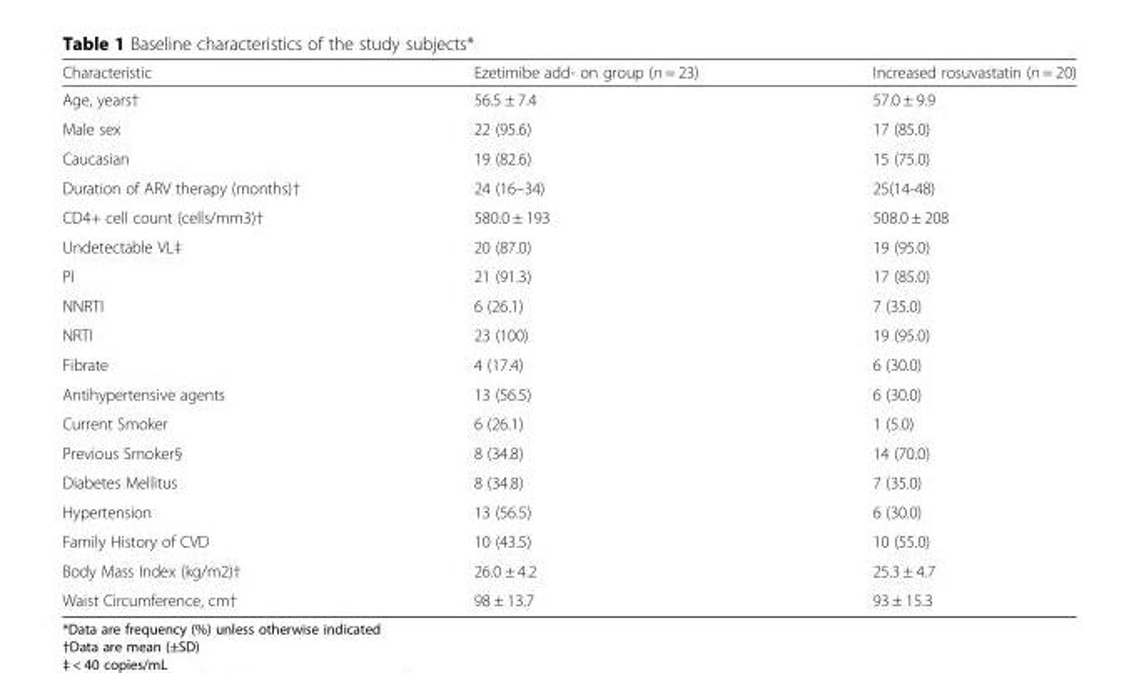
<table><thead><tr><td>Characteristic</td><td>Ezetimibe add- on group (n = 23)</td><td>Increased rosuvastatin (n = 20)</td></tr></thead><tbody><tr><td>Age, years†</td><td>56.5 ± 7.4</td><td>57.0 ± 9.9</td></tr><tr><td>Male sex</td><td>22 (95.6)</td><td>17 (85.0)</td></tr><tr><td>Caucasian</td><td>19 (82.6)</td><td>15 (75.0)</td></tr><tr><td>Duration of ARV therapy (months)†</td><td>24 (16–34)</td><td>25(14-48)</td></tr><tr><td>CD4+ cell count (cells/mm3)†</td><td>580.0 ± 193</td><td>508.0 ± 208</td></tr><tr><td>Undetectable VL‡</td><td>20 (87.0)</td><td>19 (95.0)</td></tr><tr><td>PI</td><td>21 (91.3)</td><td>17 (85.0)</td></tr><tr><td>NNRTI</td><td>6 (26.1)</td><td>7 (35.0)</td></tr><tr><td>NRTI</td><td>23 (100)</td><td>19 (95.0)</td></tr><tr><td>Fibrate</td><td>4 (17.4)</td><td>6 (30.0)</td></tr><tr><td>Antihypertensive agents</td><td>13 (56.5)</td><td>6 (30.0)</td></tr><tr><td>Current Smoker</td><td>6 (26.1)</td><td>1 (5.0)</td></tr><tr><td>Previous Smoker§</td><td>8 (34.8)</td><td>14 (70.0)</td></tr><tr><td>Diabetes Mellitus</td><td>8 (34.8)</td><td>7 (35.0)</td></tr><tr><td>Hypertension</td><td>13 (56.5)</td><td>6 (30.0)</td></tr><tr><td>Family History of CVD</td><td>10 (43.5)</td><td>10 (55.0)</td></tr><tr><td>Body Mass Index (kg/m2)†</td><td>26.0 ± 4.2</td><td>25.3 ± 4.7</td></tr><tr><td>Waist Circumference, cm†</td><td>98 ± 13.7</td><td>93 ± 15.3</td></tr></tbody></table>